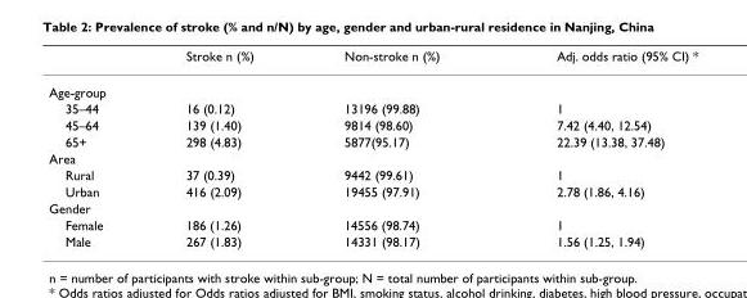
<table><thead><tr><td></td><td>Stroke n (%)</td><td>Non-stroke n (%)</td><td>Adj. odds ratio (95% CI) *</td></tr></thead><tbody><tr><td colspan="4">Age-group</td></tr><tr><td>35–44</td><td>16 (0.12)</td><td>13196 (99.88)</td><td>1</td></tr><tr><td>45–64</td><td>139 (1.40)</td><td>9814 (98.60)</td><td>7.42 (4.40, 12.54)</td></tr><tr><td>65+</td><td>298 (4.83)</td><td>5877(95.17)</td><td>22.39 (13.38, 37.48)</td></tr><tr><td colspan="4">Area</td></tr><tr><td>Rural</td><td>37 (0.39)</td><td>9442 (99.61)</td><td>1</td></tr><tr><td>Urban</td><td>416 (2.09)</td><td>19455 (97.91)</td><td>2.78 (1.86, 4.16)</td></tr><tr><td colspan="4">Gender</td></tr><tr><td>Female</td><td>186 (1.26)</td><td>14556 (98.74)</td><td>1</td></tr><tr><td>Male</td><td>267 (1.83)</td><td>14331 (98.17)</td><td>1.56 (1.25, 1.94)</td></tr></tbody></table>